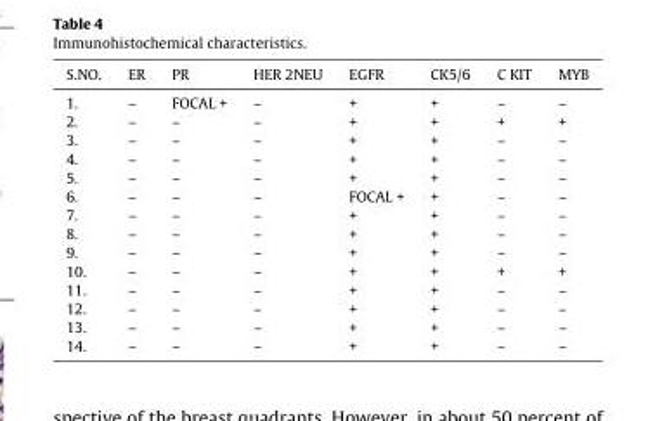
<table><thead><tr><td>S.NO.</td><td>ER</td><td>PR</td><td>HER 2NEU</td><td>EGFR</td><td>CK5/6</td><td>C KIT</td><td>MYB</td></tr></thead><tbody><tr><td>1.</td><td>–</td><td>FOCAL +</td><td>–</td><td>+</td><td>+</td><td>–</td><td>–</td></tr><tr><td>2.</td><td>–</td><td>–</td><td>–</td><td>+</td><td>+</td><td>+</td><td>+</td></tr><tr><td>3.</td><td>–</td><td>–</td><td>–</td><td>+</td><td>+</td><td>–</td><td>–</td></tr><tr><td>4.</td><td>–</td><td>–</td><td>–</td><td>+</td><td>+</td><td>–</td><td>–</td></tr><tr><td>5.</td><td>–</td><td>–</td><td>–</td><td>+</td><td>+</td><td>–</td><td>–</td></tr><tr><td>6.</td><td>–</td><td>–</td><td>–</td><td>FOCAL +</td><td>+</td><td>–</td><td>–</td></tr><tr><td>7.</td><td>–</td><td>–</td><td>–</td><td>+</td><td>+</td><td>–</td><td>–</td></tr><tr><td>8.</td><td>–</td><td>–</td><td>–</td><td>+</td><td>+</td><td>–</td><td>–</td></tr><tr><td>9.</td><td>–</td><td>–</td><td>–</td><td>+</td><td>+</td><td>–</td><td>–</td></tr><tr><td>10.</td><td>–</td><td>–</td><td>–</td><td>+</td><td>+</td><td>+</td><td>+</td></tr><tr><td>11.</td><td>–</td><td>–</td><td>–</td><td>+</td><td>+</td><td>–</td><td>–</td></tr><tr><td>12.</td><td>–</td><td>–</td><td>–</td><td>+</td><td>+</td><td>–</td><td>–</td></tr><tr><td>13.</td><td>–</td><td>–</td><td>–</td><td>+</td><td>+</td><td>–</td><td>–</td></tr><tr><td>14.</td><td>–</td><td>–</td><td>–</td><td>+</td><td>+</td><td>–</td><td>–</td></tr></tbody></table>